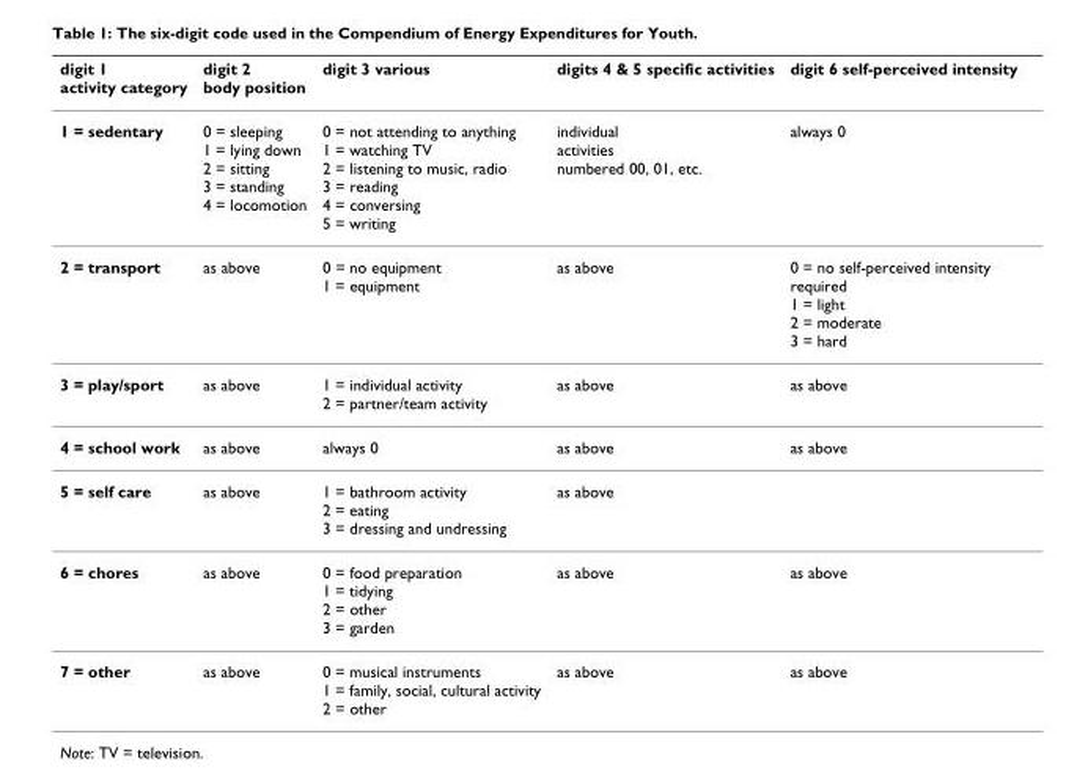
<table><thead><tr><td>digit 1 activity category</td><td>digit 2 body position</td><td>digit 3 various</td><td>digits 4 &amp; 5 specific activities</td><td>digit 6 self-perceived intensity</td></tr></thead><tbody><tr><td>1 = sedentary</td><td>0 = sleeping 1 = lying down 2 = sitting 3 = standing 4 = locomotion</td><td>0 = not attending to anything 1 = watching TV 2 = listening to music, radio 3 = reading 4 = conversing 5 = writing</td><td>individual activities numbered 00, 01, etc.</td><td>always 0</td></tr><tr><td>2 = transport</td><td>as above</td><td>0 = no equipment 1 = equipment</td><td>as above</td><td>0 = no self-perceived intensity required 1 = light 2 = moderate 3 = hard</td></tr><tr><td>3 = play/sport</td><td>as above</td><td>1 = individual activity 2 = partner/team activity</td><td>as above</td><td>as above</td></tr><tr><td>4 = school work</td><td>as above</td><td>always 0</td><td>as above</td><td>as above</td></tr><tr><td>5 = self care</td><td>as above</td><td>1 = bathroom activity 2 = eating 3 = dressing and undressing</td><td>as above</td><td></td></tr><tr><td>6 = chores</td><td>as above</td><td>0 = food preparation 1 = tidying 2 = other 3 = garden</td><td>as above</td><td>as above</td></tr><tr><td>7 = other</td><td>as above</td><td>0 = musical instruments 1 = family, social, cultural activity 2 = other</td><td>as above</td><td>as above</td></tr></tbody></table>